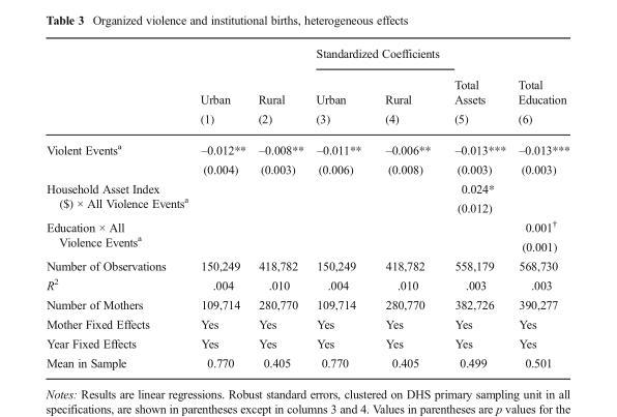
<table><thead><tr><td rowspan="3"></td><td rowspan="3">Urban (1)</td><td rowspan="3">Rural (2)</td><td colspan="2">Standardized Coefficients</td><td rowspan="3">Total Assets (5)</td><td rowspan="3">Total Education (6)</td></tr><tr><td rowspan="2">Urban (3)</td><td rowspan="2">Rural (4)</td></tr><tr></tr></thead><tbody><tr><td rowspan="2">Violent Events<sup>a</sup></td><td>–0.012**</td><td>–0.008**</td><td>–0.011**</td><td>–0.006**</td><td>–0.013***</td><td>–0.013***</td></tr><tr><td>(0.004)</td><td>(0.003)</td><td>(0.006)</td><td>(0.008)</td><td>(0.003)</td><td>(0.003)</td></tr><tr><td rowspan="2">Household Asset Index ($) × All Violence Events<sup>a</sup></td><td></td><td></td><td></td><td></td><td>0.024*</td><td></td></tr><tr><td></td><td></td><td></td><td></td><td>(0.012)</td><td></td></tr><tr><td rowspan="2">Education × All Violence Events<sup>a</sup></td><td></td><td></td><td></td><td></td><td></td><td>0.001<sup>†</sup></td></tr><tr><td></td><td></td><td></td><td></td><td></td><td>(0.001)</td></tr><tr><td>Number of Observations</td><td>150,249</td><td>418,782</td><td>150,249</td><td>418,782</td><td>558,179</td><td>568,730</td></tr><tr><td>R<sup>2</sup></td><td>.004</td><td>.010</td><td>.004</td><td>.010</td><td>.003</td><td>.003</td></tr><tr><td>Number of Mothers</td><td>109,714</td><td>280,770</td><td>109,714</td><td>280,770</td><td>382,726</td><td>390,277</td></tr><tr><td>Mother Fixed Effects</td><td>Yes</td><td>Yes</td><td>Yes</td><td>Yes</td><td>Yes</td><td>Yes</td></tr><tr><td>Year Fixed Effects</td><td>Yes</td><td>Yes</td><td>Yes</td><td>Yes</td><td>Yes</td><td>Yes</td></tr><tr><td>Mean in Sample</td><td>0.770</td><td>0.405</td><td>0.770</td><td>0.405</td><td>0.499</td><td>0.501</td></tr></tbody></table>